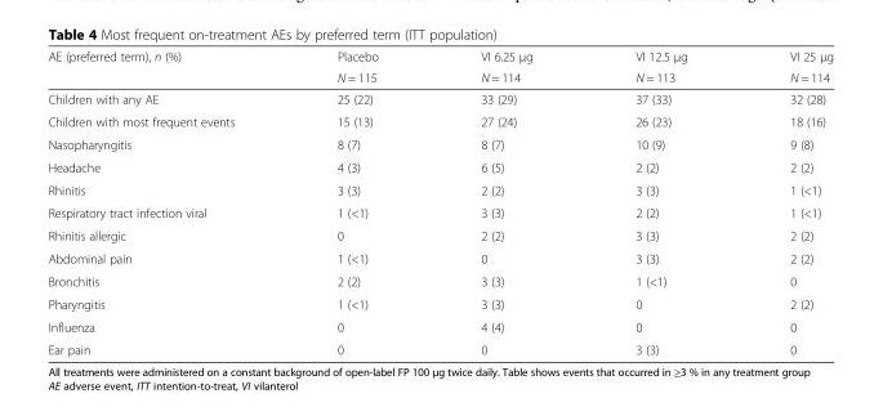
<table><thead><tr><td rowspan="2">AE (preferred term), n (%)</td><td rowspan="2">Placebo N = 115</td><td rowspan="2">VI 6.25 μg N = 114</td><td rowspan="2">VI 12.5 μg N = 113</td><td rowspan="2">VI 25 μg N = 114</td></tr><tr></tr></thead><tbody><tr><td>Children with any AE</td><td>25 (22)</td><td>33 (29)</td><td>37 (33)</td><td>32 (28)</td></tr><tr><td>Children with most frequent events</td><td>15 (13)</td><td>27 (24)</td><td>26 (23)</td><td>18 (16)</td></tr><tr><td>Nasopharyngitis</td><td>8 (7)</td><td>8 (7)</td><td>10 (9)</td><td>9 (8)</td></tr><tr><td>Headache</td><td>4 (3)</td><td>6 (5)</td><td>2 (2)</td><td>2 (2)</td></tr><tr><td>Rhinitis</td><td>3 (3)</td><td>2 (2)</td><td>3 (3)</td><td>1 (&lt;1)</td></tr><tr><td>Respiratory tract infection viral</td><td>1 (&lt;1)</td><td>3 (3)</td><td>2 (2)</td><td>1 (&lt;1)</td></tr><tr><td>Rhinitis allergic</td><td>0</td><td>2 (2)</td><td>3 (3)</td><td>2 (2)</td></tr><tr><td>Abdominal pain</td><td>1 (&lt;1)</td><td>0</td><td>3 (3)</td><td>2 (2)</td></tr><tr><td>Bronchitis</td><td>2 (2)</td><td>3 (3)</td><td>1 (&lt;1)</td><td>0</td></tr><tr><td>Pharyngitis</td><td>1 (&lt;1)</td><td>3 (3)</td><td>0</td><td>2 (2)</td></tr><tr><td>Influenza</td><td>0</td><td>4 (4)</td><td>0</td><td>0</td></tr><tr><td>Ear pain</td><td>0</td><td>0</td><td>3 (3)</td><td>0</td></tr></tbody></table>